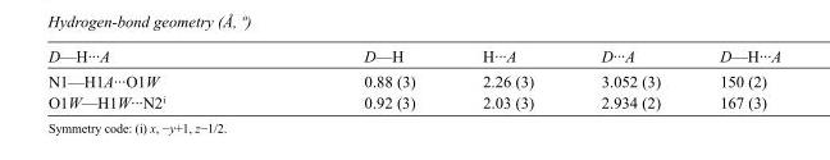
<table><tbody><tr><td>D—H···A</td><td>D—H</td><td>H···A</td><td>D···A</td><td>D—H···A</td></tr><tr><td>N1—H1A···O1W</td><td>0.88 (3)</td><td>2.26 (3)</td><td>3.052 (3)</td><td>150 (2)</td></tr><tr><td>O1W—H1W···N2<sup>i</sup></td><td>0.92 (3)</td><td>2.03 (3)</td><td>2.934 (2)</td><td>167 (3)</td></tr></tbody></table>